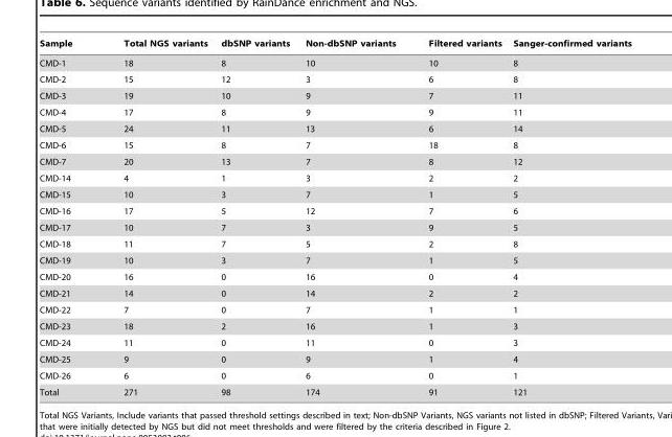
<table><thead><tr><td>Sample</td><td>Total NGS variants</td><td>dbSNP variants</td><td>Non-dbSNP variants</td><td>Filtered variants</td><td>Sanger-confirmed variants</td></tr></thead><tbody><tr><td>CMD-1</td><td>18</td><td>8</td><td>10</td><td>10</td><td>8</td></tr><tr><td>CMD-2</td><td>15</td><td>12</td><td>3</td><td>6</td><td>8</td></tr><tr><td>CMD-3</td><td>19</td><td>10</td><td>9</td><td>7</td><td>11</td></tr><tr><td>CMD-4</td><td>17</td><td>8</td><td>9</td><td>9</td><td>11</td></tr><tr><td>CMD-5</td><td>24</td><td>11</td><td>13</td><td>6</td><td>14</td></tr><tr><td>CMD-6</td><td>15</td><td>8</td><td>7</td><td>18</td><td>8</td></tr><tr><td>CMD-7</td><td>20</td><td>13</td><td>7</td><td>8</td><td>12</td></tr><tr><td>CMD-14</td><td>4</td><td>1</td><td>3</td><td>2</td><td>2</td></tr><tr><td>CMD-15</td><td>10</td><td>3</td><td>7</td><td>1</td><td>5</td></tr><tr><td>CMD-16</td><td>17</td><td>5</td><td>12</td><td>7</td><td>6</td></tr><tr><td>CMD-17</td><td>10</td><td>7</td><td>3</td><td>9</td><td>5</td></tr><tr><td>CMD-18</td><td>11</td><td>7</td><td>5</td><td>2</td><td>8</td></tr><tr><td>CMD-19</td><td>10</td><td>3</td><td>7</td><td>1</td><td>5</td></tr><tr><td>CMD-20</td><td>16</td><td>0</td><td>16</td><td>0</td><td>4</td></tr><tr><td>CMD-21</td><td>14</td><td>0</td><td>14</td><td>2</td><td>2</td></tr><tr><td>CMD-22</td><td>7</td><td>0</td><td>7</td><td>1</td><td>1</td></tr><tr><td>CMD-23</td><td>18</td><td>2</td><td>16</td><td>1</td><td>3</td></tr><tr><td>CMD-24</td><td>11</td><td>0</td><td>11</td><td>0</td><td>3</td></tr><tr><td>CMD-25</td><td>9</td><td>0</td><td>9</td><td>1</td><td>4</td></tr><tr><td>CMD-26</td><td>6</td><td>0</td><td>6</td><td>0</td><td>1</td></tr><tr><td>Total</td><td>271</td><td>98</td><td>174</td><td>91</td><td>121</td></tr></tbody></table>